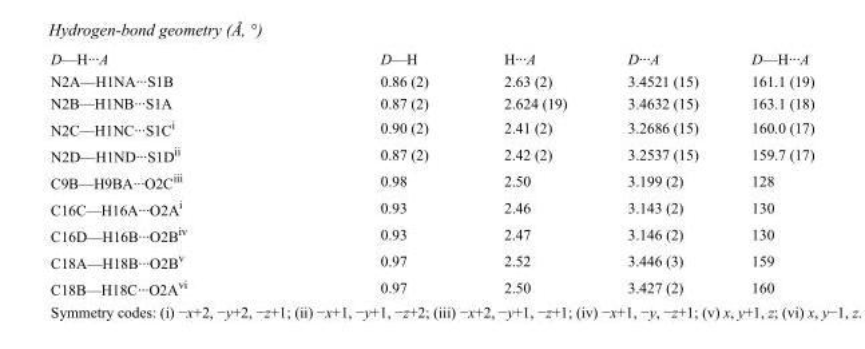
<table><tbody><tr><td>D—H···A</td><td>D—H</td><td>H···A</td><td>D···A</td><td>D—H···A</td></tr><tr><td>N2A—H1NA···S1B</td><td>0.86 (2)</td><td>2.63 (2)</td><td>3.4521 (15)</td><td>161.1 (19)</td></tr><tr><td>N2B—H1NB···S1A</td><td>0.87 (2)</td><td>2.624 (19)</td><td>3.4632 (15)</td><td>163.1 (18)</td></tr><tr><td>N2C—H1NC···S1C<sup>i</sup></td><td>0.90 (2)</td><td>2.41 (2)</td><td>3.2686 (15)</td><td>160.0 (17)</td></tr><tr><td>N2D—H1ND···S1D<sup>ii</sup></td><td>0.87 (2)</td><td>2.42 (2)</td><td>3.2537 (15)</td><td>159.7 (17)</td></tr><tr><td>C9B—H9BA···O2C<sup>iii</sup></td><td>0.98</td><td>2.50</td><td>3.199 (2)</td><td>128</td></tr><tr><td>C16C—H16A···O2A<sup>i</sup></td><td>0.93</td><td>2.46</td><td>3.143 (2)</td><td>130</td></tr><tr><td>C16D—H16B···O2B<sup>iv</sup></td><td>0.93</td><td>2.47</td><td>3.146 (2)</td><td>130</td></tr><tr><td>C18A—H18B···O2B<sup>v</sup></td><td>0.97</td><td>2.52</td><td>3.446 (3)</td><td>159</td></tr><tr><td>C18B—H18C···O2A<sup>vi</sup></td><td>0.97</td><td>2.50</td><td>3.427 (2)</td><td>160</td></tr></tbody></table>